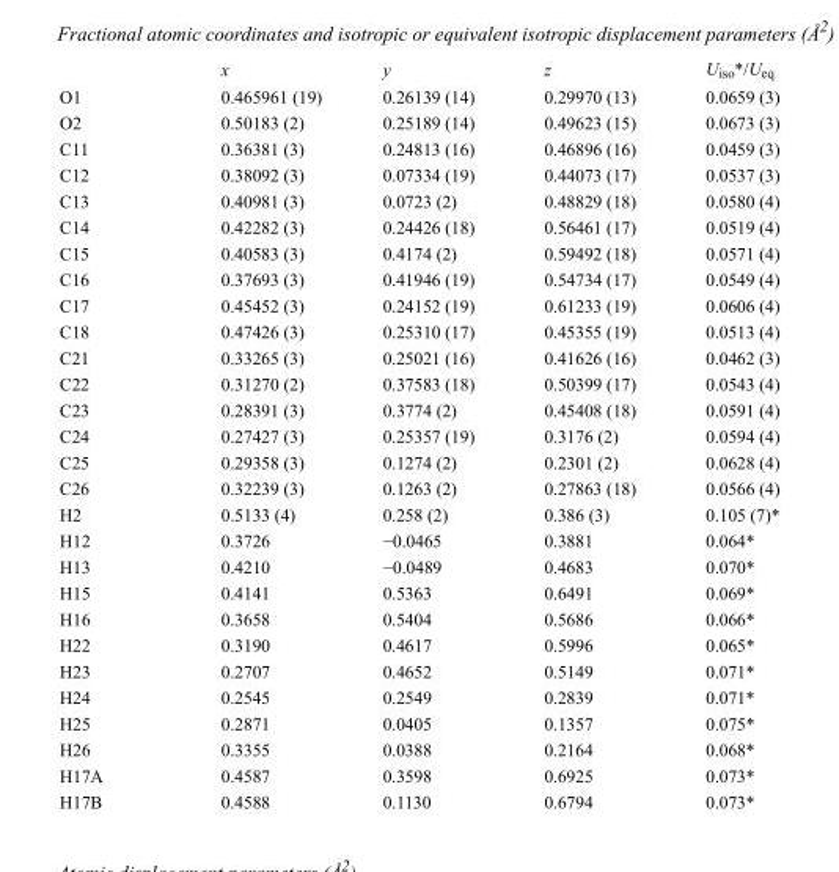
<table><thead><tr><td></td><td>x</td><td>y</td><td>z</td><td>U<sub>iso</sub>*/U<sub>eq</sub></td></tr></thead><tbody><tr><td>O1</td><td>0.465961 (19)</td><td>0.26139 (14)</td><td>0.29970 (13)</td><td>0.0659 (3)</td></tr><tr><td>O2</td><td>0.50183 (2)</td><td>0.25189 (14)</td><td>0.49623 (15)</td><td>0.0673 (3)</td></tr><tr><td>C11</td><td>0.36381 (3)</td><td>0.24813 (16)</td><td>0.46896 (16)</td><td>0.0459 (3)</td></tr><tr><td>C12</td><td>0.38092 (3)</td><td>0.07334 (19)</td><td>0.44073 (17)</td><td>0.0537 (3)</td></tr><tr><td>C13</td><td>0.40981 (3)</td><td>0.0723 (2)</td><td>0.48829 (18)</td><td>0.0580 (4)</td></tr><tr><td>C14</td><td>0.42282 (3)</td><td>0.24426 (18)</td><td>0.56461 (17)</td><td>0.0519 (4)</td></tr><tr><td>C15</td><td>0.40583 (3)</td><td>0.4174 (2)</td><td>0.59492 (18)</td><td>0.0571 (4)</td></tr><tr><td>C16</td><td>0.37693 (3)</td><td>0.41946 (19)</td><td>0.54734 (17)</td><td>0.0549 (4)</td></tr><tr><td>C17</td><td>0.45452 (3)</td><td>0.24152 (19)</td><td>0.61233 (19)</td><td>0.0606 (4)</td></tr><tr><td>C18</td><td>0.47426 (3)</td><td>0.25310 (17)</td><td>0.45355 (19)</td><td>0.0513 (4)</td></tr><tr><td>C21</td><td>0.33265 (3)</td><td>0.25021 (16)</td><td>0.41626 (16)</td><td>0.0462 (3)</td></tr><tr><td>C22</td><td>0.31270 (2)</td><td>0.37583 (18)</td><td>0.50399 (17)</td><td>0.0543 (4)</td></tr><tr><td>C23</td><td>0.28391 (3)</td><td>0.3774 (2)</td><td>0.45408 (18)</td><td>0.0591 (4)</td></tr><tr><td>C24</td><td>0.27427 (3)</td><td>0.25357 (19)</td><td>0.3176 (2)</td><td>0.0594 (4)</td></tr><tr><td>C25</td><td>0.29358 (3)</td><td>0.1274 (2)</td><td>0.2301 (2)</td><td>0.0628 (4)</td></tr><tr><td>C26</td><td>0.32239 (3)</td><td>0.1263 (2)</td><td>0.27863 (18)</td><td>0.0566 (4)</td></tr><tr><td>H2</td><td>0.5133 (4)</td><td>0.258 (2)</td><td>0.386 (3)</td><td>0.105 (7)*</td></tr><tr><td>H12</td><td>0.3726</td><td>−0.0465</td><td>0.3881</td><td>0.064*</td></tr><tr><td>H13</td><td>0.4210</td><td>−0.0489</td><td>0.4683</td><td>0.070*</td></tr><tr><td>H15</td><td>0.4141</td><td>0.5363</td><td>0.6491</td><td>0.069*</td></tr><tr><td>H16</td><td>0.3658</td><td>0.5404</td><td>0.5686</td><td>0.066*</td></tr><tr><td>H22</td><td>0.3190</td><td>0.4617</td><td>0.5996</td><td>0.065*</td></tr><tr><td>H23</td><td>0.2707</td><td>0.4652</td><td>0.5149</td><td>0.071*</td></tr><tr><td>H24</td><td>0.2545</td><td>0.2549</td><td>0.2839</td><td>0.071*</td></tr><tr><td>H25</td><td>0.2871</td><td>0.0405</td><td>0.1357</td><td>0.075*</td></tr><tr><td>H26</td><td>0.3355</td><td>0.0388</td><td>0.2164</td><td>0.068*</td></tr><tr><td>H17A</td><td>0.4587</td><td>0.3598</td><td>0.6925</td><td>0.073*</td></tr><tr><td>H17B</td><td>0.4588</td><td>0.1130</td><td>0.6794</td><td>0.073*</td></tr></tbody></table>